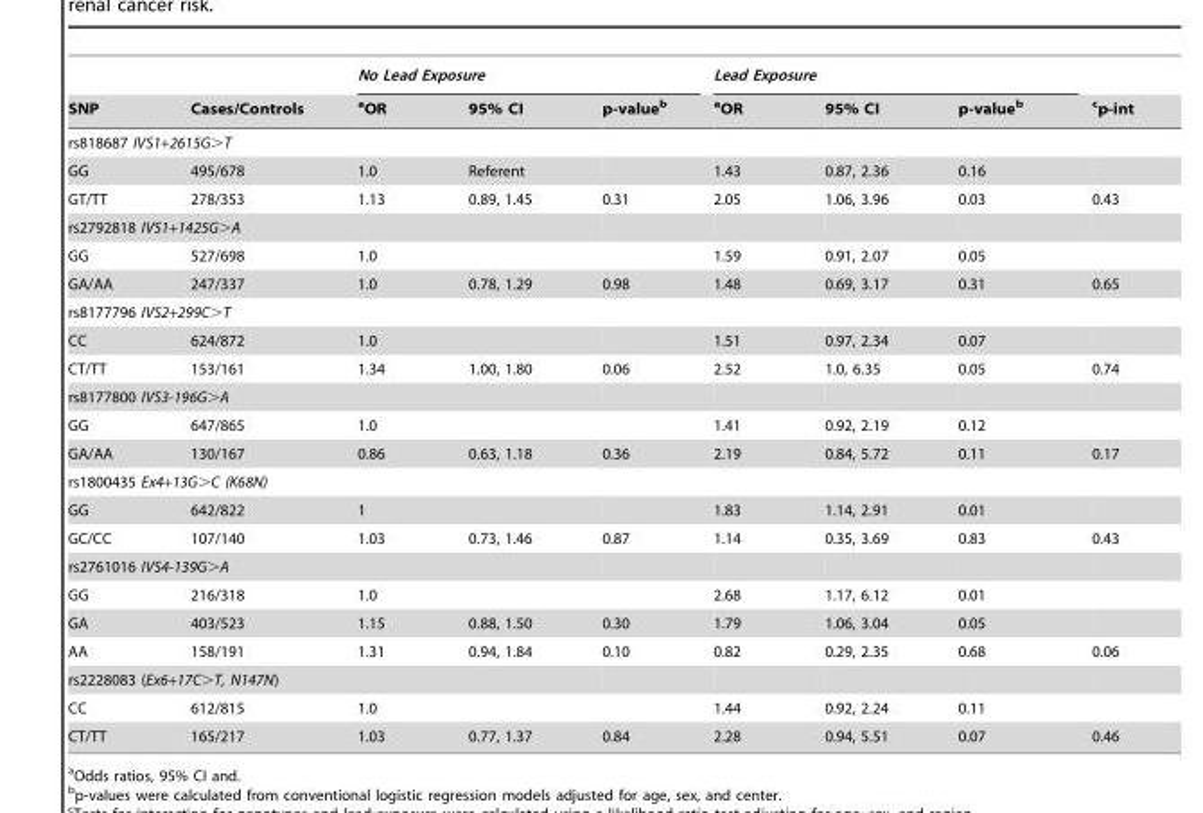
<table><thead><tr><td rowspan="2">SNP</td><td rowspan="2">Cases/Controls</td><td colspan="3">No Lead Exposure</td><td colspan="3">Lead Exposure</td><td rowspan="2">cp-int</td></tr><tr><td>aOR</td><td>95% CI</td><td>p-value<sup>b</sup></td><td>aOR</td><td>95% CI</td><td>p-value<sup>b</sup></td></tr></thead><tbody><tr><td colspan="9">rs818687 IVS1+2615G&gt;T</td></tr><tr><td>GG</td><td>495/678</td><td>1.0</td><td>Referent</td><td></td><td>1.43</td><td>0.87, 2.36</td><td>0.16</td><td></td></tr><tr><td>GT/TT</td><td>278/353</td><td>1.13</td><td>0.89, 1.45</td><td>0.31</td><td>2.05</td><td>1.06, 3.96</td><td>0.03</td><td>0.43</td></tr><tr><td colspan="9">rs2792818 IVS1+1425G&gt;A</td></tr><tr><td>GG</td><td>527/698</td><td>1.0</td><td></td><td></td><td>1.59</td><td>0.91, 2.07</td><td>0.05</td><td></td></tr><tr><td>GA/AA</td><td>247/337</td><td>1.0</td><td>0.78, 1.29</td><td>0.98</td><td>1.48</td><td>0.69, 3.17</td><td>0.31</td><td>0.65</td></tr><tr><td colspan="9">rs8177796 IVS2+299C&gt;T</td></tr><tr><td>CC</td><td>624/872</td><td>1.0</td><td></td><td></td><td>1.51</td><td>0.97, 2.34</td><td>0.07</td><td></td></tr><tr><td>CT/TT</td><td>153/161</td><td>1.34</td><td>1.00, 1.80</td><td>0.06</td><td>2.52</td><td>1.0, 6.35</td><td>0.05</td><td>0.74</td></tr><tr><td colspan="9">rs8177800 IVS3-196G&gt;A</td></tr><tr><td>GG</td><td>647/865</td><td>1.0</td><td></td><td></td><td>1.41</td><td>0.92, 2.19</td><td>0.12</td><td></td></tr><tr><td>GA/AA</td><td>130/167</td><td>0.86</td><td>0.63, 1.18</td><td>0.36</td><td>2.19</td><td>0.84, 5.72</td><td>0.11</td><td>0.17</td></tr><tr><td colspan="9">rs1800435 Ex4+13G&gt;C (K68N)</td></tr><tr><td>GG</td><td>642/822</td><td>1</td><td></td><td></td><td>1.83</td><td>1.14, 2.91</td><td>0.01</td><td></td></tr><tr><td>GC/CC</td><td>107/140</td><td>1.03</td><td>0.73, 1.46</td><td>0.87</td><td>1.14</td><td>0.35, 3.69</td><td>0.83</td><td>0.43</td></tr><tr><td colspan="9">rs2761016 IVS4-139G&gt;A</td></tr><tr><td>GG</td><td>216/318</td><td>1.0</td><td></td><td></td><td>2.68</td><td>1.17, 6.12</td><td>0.01</td><td></td></tr><tr><td>GA</td><td>403/523</td><td>1.15</td><td>0.88, 1.50</td><td>0.30</td><td>1.79</td><td>1.06, 3.04</td><td>0.05</td><td></td></tr><tr><td>AA</td><td>158/191</td><td>1.31</td><td>0.94, 1.84</td><td>0.10</td><td>0.82</td><td>0.29, 2.35</td><td>0.68</td><td>0.06</td></tr><tr><td colspan="9">rs2228083 (Ex6+17C&gt;T, N147N)</td></tr><tr><td>CC</td><td>612/815</td><td>1.0</td><td></td><td></td><td>1.44</td><td>0.92, 2.24</td><td>0.11</td><td></td></tr><tr><td>CT/TT</td><td>165/217</td><td>1.03</td><td>0.77, 1.37</td><td>0.84</td><td>2.28</td><td>0.94, 5.51</td><td>0.07</td><td>0.46</td></tr></tbody></table>